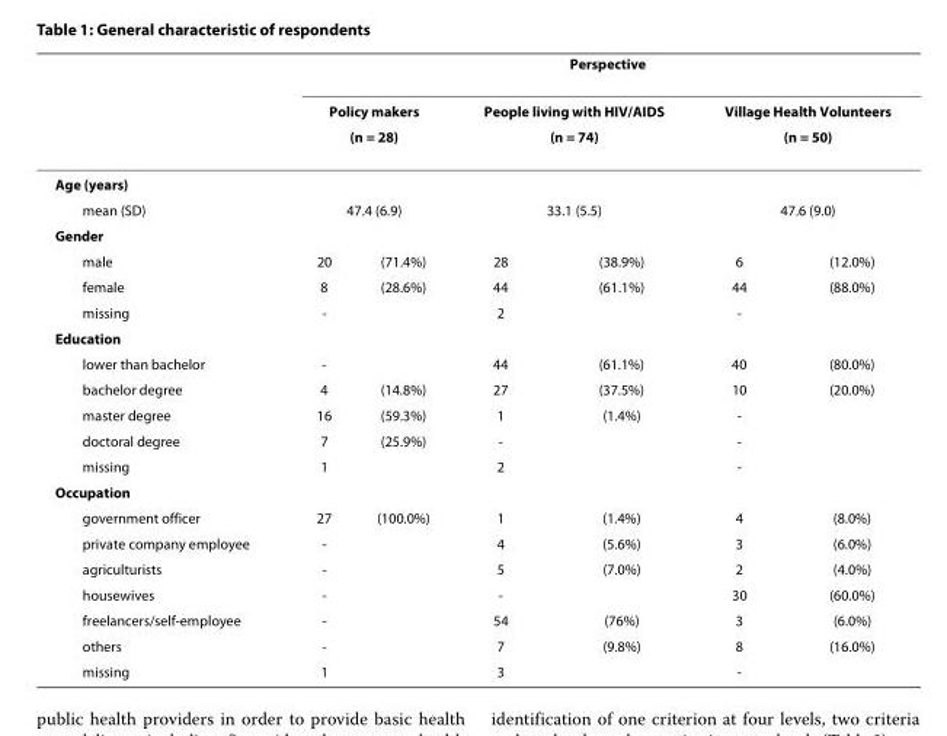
<table><thead><tr><td rowspan="4">Age (years)</td><td colspan="6">Perspective</td></tr><tr><td rowspan="2" colspan="2">Policy makers (n = 28)</td><td rowspan="2" colspan="2">People living with HIV/AIDS (n = 74)</td><td rowspan="2" colspan="2">Village Health Volunteers (n = 50)</td></tr><tr></tr><tr><td></td><td></td><td></td><td></td><td></td><td></td></tr></thead><tbody><tr><td>mean (SD)</td><td colspan="2">47.4 (6.9)</td><td colspan="2">33.1 (5.5)</td><td colspan="2">47.6 (9.0)</td></tr><tr><td colspan="7">Gender</td></tr><tr><td>male</td><td>20</td><td>(71.4%)</td><td>28</td><td>(38.9%)</td><td>6</td><td>(12.0%)</td></tr><tr><td>female</td><td>8</td><td>(28.6%)</td><td>44</td><td>(61.1%)</td><td>44</td><td>(88.0%)</td></tr><tr><td>missing</td><td>-</td><td></td><td>2</td><td></td><td>-</td><td></td></tr><tr><td colspan="7">Education</td></tr><tr><td>lower than bachelor</td><td>-</td><td></td><td>44</td><td>(61.1%)</td><td>40</td><td>(80.0%)</td></tr><tr><td>bachelor degree</td><td>4</td><td>(14.8%)</td><td>27</td><td>(37.5%)</td><td>10</td><td>(20.0%)</td></tr><tr><td>master degree</td><td>16</td><td>(59.3%)</td><td>1</td><td>(1.4%)</td><td>-</td><td></td></tr><tr><td>doctoral degree</td><td>7</td><td>(25.9%)</td><td>-</td><td></td><td>-</td><td></td></tr><tr><td>missing</td><td>1</td><td></td><td>2</td><td></td><td>-</td><td></td></tr><tr><td colspan="7">Occupation</td></tr><tr><td>government officer</td><td>27</td><td>(100.0%)</td><td>1</td><td>(1.4%)</td><td>4</td><td>(8.0%)</td></tr><tr><td>private company employee</td><td>-</td><td></td><td>4</td><td>(5.6%)</td><td>3</td><td>(6.0%)</td></tr><tr><td>agriculturists</td><td>-</td><td></td><td>5</td><td>(7.0%)</td><td>2</td><td>(4.0%)</td></tr><tr><td>housewives</td><td>-</td><td></td><td>-</td><td></td><td>30</td><td>(60.0%)</td></tr><tr><td>freelancers/self-employee</td><td>-</td><td></td><td>54</td><td>(76%)</td><td>3</td><td>(6.0%)</td></tr><tr><td>others</td><td>-</td><td></td><td>7</td><td>(9.8%)</td><td>8</td><td>(16.0%)</td></tr><tr><td>missing</td><td>1</td><td></td><td>3</td><td></td><td>-</td><td></td></tr></tbody></table>